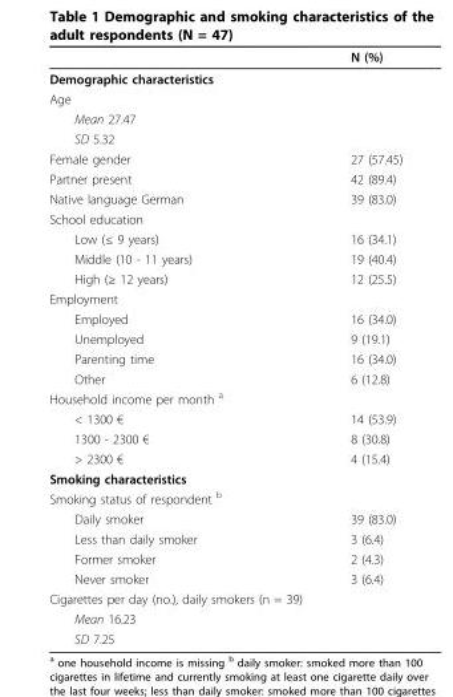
<table><thead><tr><td></td><td>N (%)</td></tr></thead><tbody><tr><td colspan="2">Demographic characteristics</td></tr><tr><td colspan="2">Age</td></tr><tr><td colspan="2">Mean 27.47</td></tr><tr><td colspan="2">SD 5.32</td></tr><tr><td>Female gender</td><td>27 (57.45)</td></tr><tr><td>Partner present</td><td>42 (89.4)</td></tr><tr><td>Native language German</td><td>39 (83.0)</td></tr><tr><td colspan="2">School education</td></tr><tr><td>Low (≤ 9 years)</td><td>16 (34.1)</td></tr><tr><td>Middle (10 - 11 years)</td><td>19 (40.4)</td></tr><tr><td>High (≥ 12 years)</td><td>12 (25.5)</td></tr><tr><td colspan="2">Employment</td></tr><tr><td>Employed</td><td>16 (34.0)</td></tr><tr><td>Unemployed</td><td>9 (19.1)</td></tr><tr><td>Parenting time</td><td>16 (34.0)</td></tr><tr><td>Other</td><td>6 (12.8)</td></tr><tr><td colspan="2">Household income per month <sup>a</sup></td></tr><tr><td>&lt; 1300 €</td><td>14 (53.9)</td></tr><tr><td>1300 - 2300 €</td><td>8 (30.8)</td></tr><tr><td>&gt; 2300 €</td><td>4 (15.4)</td></tr><tr><td colspan="2">Smoking characteristics</td></tr><tr><td colspan="2">Smoking status of respondent <sup>b</sup></td></tr><tr><td>Daily smoker</td><td>39 (83.0)</td></tr><tr><td>Less than daily smoker</td><td>3 (6.4)</td></tr><tr><td>Former smoker</td><td>2 (4.3)</td></tr><tr><td>Never smoker</td><td>3 (6.4)</td></tr><tr><td colspan="2">Cigarettes per day (no.), daily smokers (n = 39)</td></tr><tr><td colspan="2">Mean 16.23</td></tr><tr><td>SD 7.25</td><td></td></tr></tbody></table>